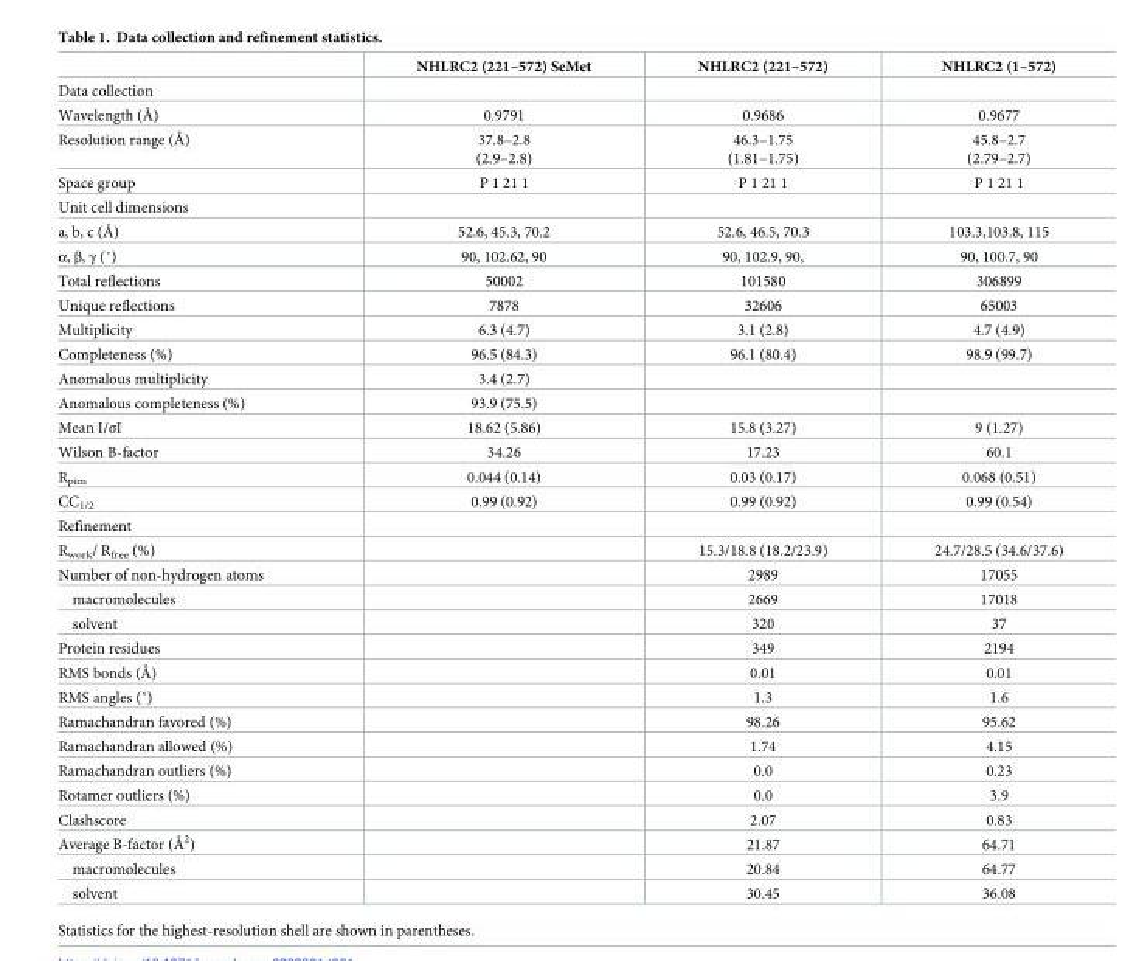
<table><thead><tr><td></td><td>NHLRC2 (221–572) SeMet</td><td>NHLRC2 (221–572)</td><td>NHLRC2 (1–572)</td></tr></thead><tbody><tr><td colspan="4">Data collection</td></tr><tr><td>Wavelength (Å)</td><td>0.9791</td><td>0.9686</td><td>0.9677</td></tr><tr><td>Resolution range (Å)</td><td>37.8–2.8 (2.9–2.8)</td><td>46.3–1.75 (1.81–1.75)</td><td>45.8–2.7 (2.79–2.7)</td></tr><tr><td>Space group</td><td>P 1 21 1</td><td>P 1 21 1</td><td>P 1 21 1</td></tr><tr><td colspan="4">Unit cell dimensions</td></tr><tr><td>a, b, c (Å)</td><td>52.6, 45.3, 70.2</td><td>52.6, 46.5, 70.3</td><td>103.3,103.8, 115</td></tr><tr><td>α, β, γ (˚)</td><td>90, 102.62, 90</td><td>90, 102.9, 90,</td><td>90, 100.7, 90</td></tr><tr><td>Total reflections</td><td>50002</td><td>101580</td><td>306899</td></tr><tr><td>Unique reflections</td><td>7878</td><td>32606</td><td>65003</td></tr><tr><td>Multiplicity</td><td>6.3 (4.7)</td><td>3.1 (2.8)</td><td>4.7 (4.9)</td></tr><tr><td>Completeness (%)</td><td>96.5 (84.3)</td><td>96.1 (80.4)</td><td>98.9 (99.7)</td></tr><tr><td>Anomalous multiplicity</td><td>3.4 (2.7)</td><td></td><td></td></tr><tr><td>Anomalous completeness (%)</td><td>93.9 (75.5)</td><td></td><td></td></tr><tr><td>Mean I/σI</td><td>18.62 (5.86)</td><td>15.8 (3.27)</td><td>9 (1.27)</td></tr><tr><td>Wilson B-factor</td><td>34.26</td><td>17.23</td><td>60.1</td></tr><tr><td>R<sub>pim</sub></td><td>0.044 (0.14)</td><td>0.03 (0.17)</td><td>0.068 (0.51)</td></tr><tr><td>CC<sub>1/2</sub></td><td>0.99 (0.92)</td><td>0.99 (0.92)</td><td>0.99 (0.54)</td></tr><tr><td colspan="4">Refinement</td></tr><tr><td>R<sub>work</sub>/ R<sub>free</sub> (%)</td><td></td><td>15.3/18.8 (18.2/23.9)</td><td>24.7/28.5 (34.6/37.6)</td></tr><tr><td>Number of non-hydrogen atoms</td><td></td><td>2989</td><td>17055</td></tr><tr><td>macromolecules</td><td></td><td>2669</td><td>17018</td></tr><tr><td>solvent</td><td></td><td>320</td><td>37</td></tr><tr><td>Protein residues</td><td></td><td>349</td><td>2194</td></tr><tr><td>RMS bonds (Å)</td><td></td><td>0.01</td><td>0.01</td></tr><tr><td>RMS angles (˚)</td><td></td><td>1.3</td><td>1.6</td></tr><tr><td>Ramachandran favored (%)</td><td></td><td>98.26</td><td>95.62</td></tr><tr><td>Ramachandran allowed (%)</td><td></td><td>1.74</td><td>4.15</td></tr><tr><td>Ramachandran outliers (%)</td><td></td><td>0.0</td><td>0.23</td></tr><tr><td>Rotamer outliers (%)</td><td></td><td>0.0</td><td>3.9</td></tr><tr><td>Clashscore</td><td></td><td>2.07</td><td>0.83</td></tr><tr><td>Average B-factor (Å<sup>2</sup>)</td><td></td><td>21.87</td><td>64.71</td></tr><tr><td>macromolecules</td><td></td><td>20.84</td><td>64.77</td></tr><tr><td>solvent</td><td></td><td>30.45</td><td>36.08</td></tr></tbody></table>